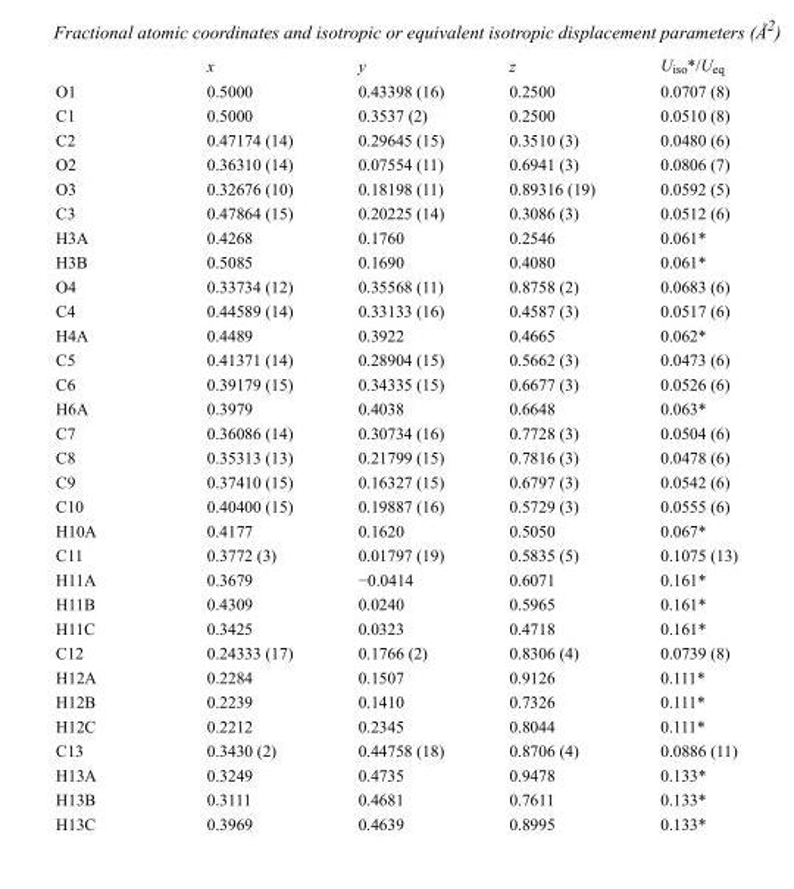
<table><thead><tr><td></td><td>x</td><td>y</td><td>z</td><td>U<sub>iso</sub>*/U<sub>eq</sub></td></tr></thead><tbody><tr><td>O1</td><td>0.5000</td><td>0.43398 (16)</td><td>0.2500</td><td>0.0707 (8)</td></tr><tr><td>C1</td><td>0.5000</td><td>0.3537 (2)</td><td>0.2500</td><td>0.0510 (8)</td></tr><tr><td>C2</td><td>0.47174 (14)</td><td>0.29645 (15)</td><td>0.3510 (3)</td><td>0.0480 (6)</td></tr><tr><td>O2</td><td>0.36310 (14)</td><td>0.07554 (11)</td><td>0.6941 (3)</td><td>0.0806 (7)</td></tr><tr><td>O3</td><td>0.32676 (10)</td><td>0.18198 (11)</td><td>0.89316 (19)</td><td>0.0592 (5)</td></tr><tr><td>C3</td><td>0.47864 (15)</td><td>0.20225 (14)</td><td>0.3086 (3)</td><td>0.0512 (6)</td></tr><tr><td>H3A</td><td>0.4268</td><td>0.1760</td><td>0.2546</td><td>0.061*</td></tr><tr><td>H3B</td><td>0.5085</td><td>0.1690</td><td>0.4080</td><td>0.061*</td></tr><tr><td>O4</td><td>0.33734 (12)</td><td>0.35568 (11)</td><td>0.8758 (2)</td><td>0.0683 (6)</td></tr><tr><td>C4</td><td>0.44589 (14)</td><td>0.33133 (16)</td><td>0.4587 (3)</td><td>0.0517 (6)</td></tr><tr><td>H4A</td><td>0.4489</td><td>0.3922</td><td>0.4665</td><td>0.062*</td></tr><tr><td>C5</td><td>0.41371 (14)</td><td>0.28904 (15)</td><td>0.5662 (3)</td><td>0.0473 (6)</td></tr><tr><td>C6</td><td>0.39179 (15)</td><td>0.34335 (15)</td><td>0.6677 (3)</td><td>0.0526 (6)</td></tr><tr><td>H6A</td><td>0.3979</td><td>0.4038</td><td>0.6648</td><td>0.063*</td></tr><tr><td>C7</td><td>0.36086 (14)</td><td>0.30734 (16)</td><td>0.7728 (3)</td><td>0.0504 (6)</td></tr><tr><td>C8</td><td>0.35313 (13)</td><td>0.21799 (15)</td><td>0.7816 (3)</td><td>0.0478 (6)</td></tr><tr><td>C9</td><td>0.37410 (15)</td><td>0.16327 (15)</td><td>0.6797 (3)</td><td>0.0542 (6)</td></tr><tr><td>C10</td><td>0.40400 (15)</td><td>0.19887 (16)</td><td>0.5729 (3)</td><td>0.0555 (6)</td></tr><tr><td>H10A</td><td>0.4177</td><td>0.1620</td><td>0.5050</td><td>0.067*</td></tr><tr><td>C11</td><td>0.3772 (3)</td><td>0.01797 (19)</td><td>0.5835 (5)</td><td>0.1075 (13)</td></tr><tr><td>H11A</td><td>0.3679</td><td>−0.0414</td><td>0.6071</td><td>0.161*</td></tr><tr><td>H11B</td><td>0.4309</td><td>0.0240</td><td>0.5965</td><td>0.161*</td></tr><tr><td>H11C</td><td>0.3425</td><td>0.0323</td><td>0.4718</td><td>0.161*</td></tr><tr><td>C12</td><td>0.24333 (17)</td><td>0.1766 (2)</td><td>0.8306 (4)</td><td>0.0739 (8)</td></tr><tr><td>H12A</td><td>0.2284</td><td>0.1507</td><td>0.9126</td><td>0.111*</td></tr><tr><td>H12B</td><td>0.2239</td><td>0.1410</td><td>0.7326</td><td>0.111*</td></tr><tr><td>H12C</td><td>0.2212</td><td>0.2345</td><td>0.8044</td><td>0.111*</td></tr><tr><td>C13</td><td>0.3430 (2)</td><td>0.44758 (18)</td><td>0.8706 (4)</td><td>0.0886 (11)</td></tr><tr><td>H13A</td><td>0.3249</td><td>0.4735</td><td>0.9478</td><td>0.133*</td></tr><tr><td>H13B</td><td>0.3111</td><td>0.4681</td><td>0.7611</td><td>0.133*</td></tr><tr><td>H13C</td><td>0.3969</td><td>0.4639</td><td>0.8995</td><td>0.133*</td></tr></tbody></table>